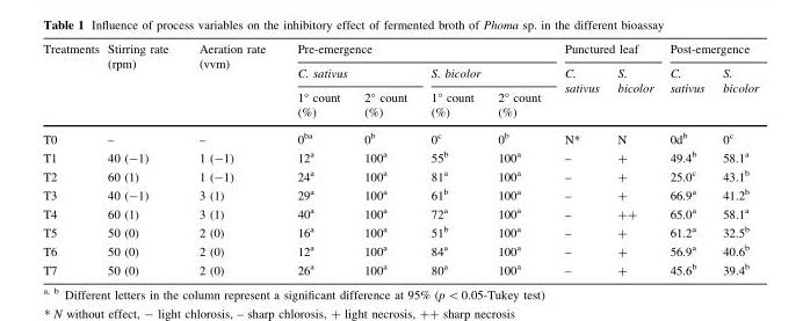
<table><thead><tr><td rowspan="3">Treatments</td><td rowspan="3">Stirring rate (rpm)</td><td rowspan="3">Aeration rate (vvm)</td><td colspan="4">Pre-emergence</td><td colspan="2">Punctured leaf</td><td colspan="2">Post-emergence</td></tr><tr><td colspan="2">C. sativus</td><td colspan="2">S. bicolor</td><td rowspan="2">C. sativus</td><td rowspan="2">S. bicolor</td><td rowspan="2">C. sativus</td><td rowspan="2">S. bicolor</td></tr><tr><td>1° count (%)</td><td>2° count (%)</td><td>1° count (%)</td><td>2° count (%)</td></tr></thead><tbody><tr><td>T0</td><td>–</td><td>–</td><td>0<sup>ba</sup></td><td>0<sup>b</sup></td><td>0<sup>c</sup></td><td>0<sup>b</sup></td><td>N*</td><td>N</td><td>0d<sup>b</sup></td><td>0<sup>c</sup></td></tr><tr><td>T1</td><td>40 (-1)</td><td>1 (-1)</td><td>12<sup>a</sup></td><td>100<sup>a</sup></td><td>55<sup>b</sup></td><td>100<sup>a</sup></td><td>–</td><td>+</td><td>49.4<sup>b</sup></td><td>58.1<sup>a</sup></td></tr><tr><td>T2</td><td>60 (1)</td><td>1 (-1)</td><td>24<sup>a</sup></td><td>100<sup>a</sup></td><td>81<sup>a</sup></td><td>100<sup>a</sup></td><td>–</td><td>+</td><td>25.0<sup>c</sup></td><td>43.1<sup>b</sup></td></tr><tr><td>T3</td><td>40 (-1)</td><td>3 (1)</td><td>29<sup>a</sup></td><td>100<sup>a</sup></td><td>61<sup>b</sup></td><td>100<sup>a</sup></td><td>–</td><td>+</td><td>66.9<sup>a</sup></td><td>41.2<sup>b</sup></td></tr><tr><td>T4</td><td>60 (1)</td><td>3 (1)</td><td>40<sup>a</sup></td><td>100<sup>a</sup></td><td>72<sup>a</sup></td><td>100<sup>a</sup></td><td>–</td><td>++</td><td>65.0<sup>a</sup></td><td>58.1<sup>a</sup></td></tr><tr><td>T5</td><td>50 (0)</td><td>2 (0)</td><td>16<sup>a</sup></td><td>100<sup>a</sup></td><td>51<sup>b</sup></td><td>100<sup>a</sup></td><td>–</td><td>+</td><td>61.2<sup>a</sup></td><td>32.5<sup>b</sup></td></tr><tr><td>T6</td><td>50 (0)</td><td>2 (0)</td><td>12<sup>a</sup></td><td>100<sup>a</sup></td><td>84<sup>a</sup></td><td>100<sup>a</sup></td><td>–</td><td>+</td><td>56.9<sup>a</sup></td><td>40.6<sup>b</sup></td></tr><tr><td>T7</td><td>50 (0)</td><td>2 (0)</td><td>26<sup>a</sup></td><td>100<sup>a</sup></td><td>80<sup>a</sup></td><td>100<sup>a</sup></td><td>–</td><td>+</td><td>45.6<sup>b</sup></td><td>39.4<sup>b</sup></td></tr></tbody></table>